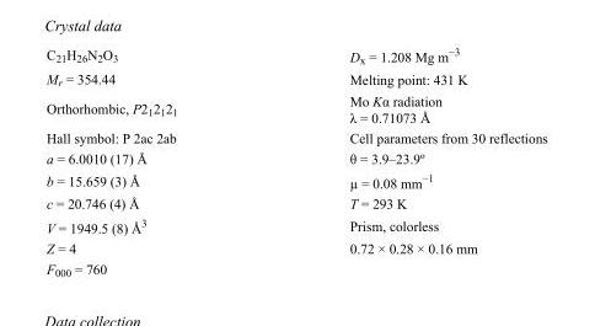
<table><tbody><tr><td>C<sub>21</sub>H<sub>26</sub>N<sub>2</sub>O<sub>3</sub></td><td>D<sub>x</sub> = 1.208 Mg m<sup>−3</sup></td></tr><tr><td>M<sub>r</sub> = 354.44</td><td>Melting point: 431 K</td></tr><tr><td>Orthorhombic, P2<sub>1</sub>2<sub>1</sub>2<sub>1</sub></td><td>Mo Kα radiation λ = 0.71073 Å</td></tr><tr><td>Hall symbol: P 2ac 2ab</td><td>Cell parameters from 30 reflections</td></tr><tr><td>a = 6.0010 (17) Å</td><td>θ = 3.9–23.9º</td></tr><tr><td>b = 15.659 (3) Å</td><td>µ = 0.08 mm<sup>−1</sup></td></tr><tr><td>c = 20.746 (4) Å</td><td>T = 293 K</td></tr><tr><td>V = 1949.5 (8) Å<sup>3</sup></td><td>Prism, colorless</td></tr><tr><td>Z = 4</td><td>0.72 × 0.28 × 0.16 mm</td></tr><tr><td>F000 = 760</td><td></td></tr></tbody></table>